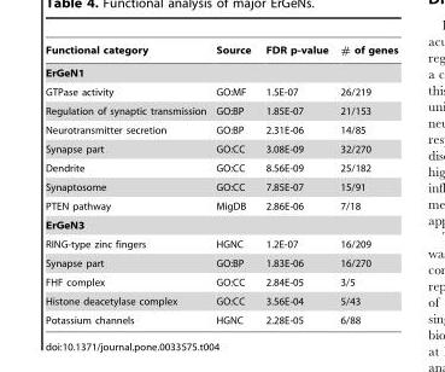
<table><thead><tr><td>Functional category</td><td>Source</td><td>FDR p-value</td><td># of genes</td></tr></thead><tbody><tr><td colspan="4">ErGeN1</td></tr><tr><td>GTPase activity</td><td>GO:MF</td><td>1.5E-07</td><td>26/219</td></tr><tr><td>Regulation of synaptic transmission</td><td>GO:BP</td><td>1.85E-07</td><td>21/153</td></tr><tr><td>Neurotransmitter secretion</td><td>GO:BP</td><td>2.31E-06</td><td>14/85</td></tr><tr><td>Synapse part</td><td>GO:CC</td><td>3.08E-09</td><td>32/270</td></tr><tr><td>Dendrite</td><td>GO:CC</td><td>8.56E-09</td><td>25/182</td></tr><tr><td>Synaptosome</td><td>GO:CC</td><td>7.85E-07</td><td>15/91</td></tr><tr><td>PTEN pathway</td><td>MigDB</td><td>2.86E-06</td><td>7/18</td></tr><tr><td colspan="4">ErGeN3</td></tr><tr><td>RING-type zinc fingers</td><td>HGNC</td><td>1.2E-07</td><td>16/209</td></tr><tr><td>Synapse part</td><td>GO:BP</td><td>1.83E-06</td><td>16/270</td></tr><tr><td>FHF complex</td><td>GO:CC</td><td>2.84E-05</td><td>3/5</td></tr><tr><td>Histone deacetylase complex</td><td>GO:CC</td><td>3.56E-04</td><td>5/43</td></tr><tr><td>Potassium channels</td><td>HGNC</td><td>2.28E-05</td><td>6/88</td></tr></tbody></table>